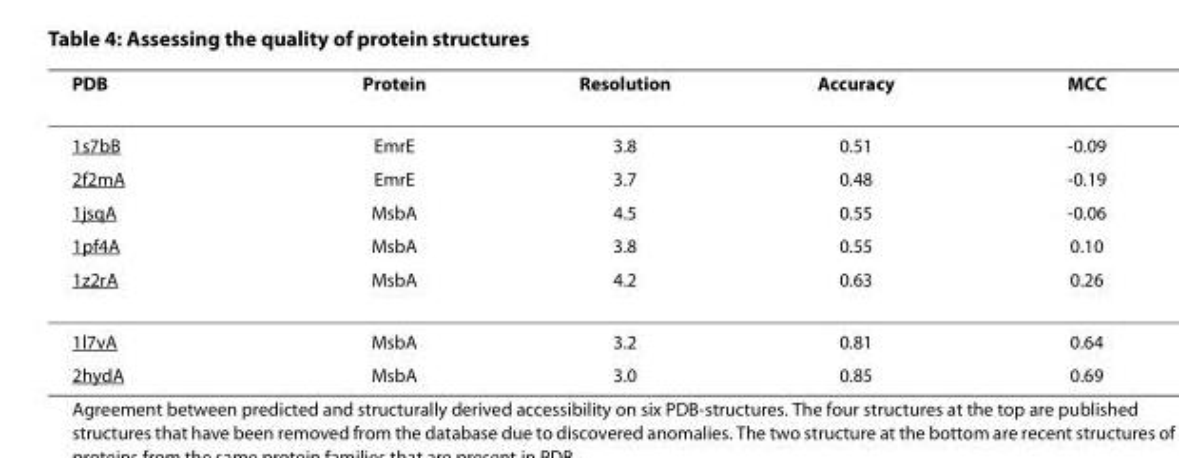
<table><thead><tr><td>PDB</td><td>Protein</td><td>Resolution</td><td>Accuracy</td><td>MCC</td></tr></thead><tbody><tr><td>1s7bB</td><td>EmrE</td><td>3.8</td><td>0.51</td><td>-0.09</td></tr><tr><td>2f2mA</td><td>EmrE</td><td>3.7</td><td>0.48</td><td>-0.19</td></tr><tr><td>1jsqA</td><td>MsbA</td><td>4.5</td><td>0.55</td><td>-0.06</td></tr><tr><td>1pf4A</td><td>MsbA</td><td>3.8</td><td>0.55</td><td>0.10</td></tr><tr><td>1z2rA</td><td>MsbA</td><td>4.2</td><td>0.63</td><td>0.26</td></tr><tr><td>1l7vA</td><td>MsbA</td><td>3.2</td><td>0.81</td><td>0.64</td></tr><tr><td>2hydA</td><td>MsbA</td><td>3.0</td><td>0.85</td><td>0.69</td></tr></tbody></table>